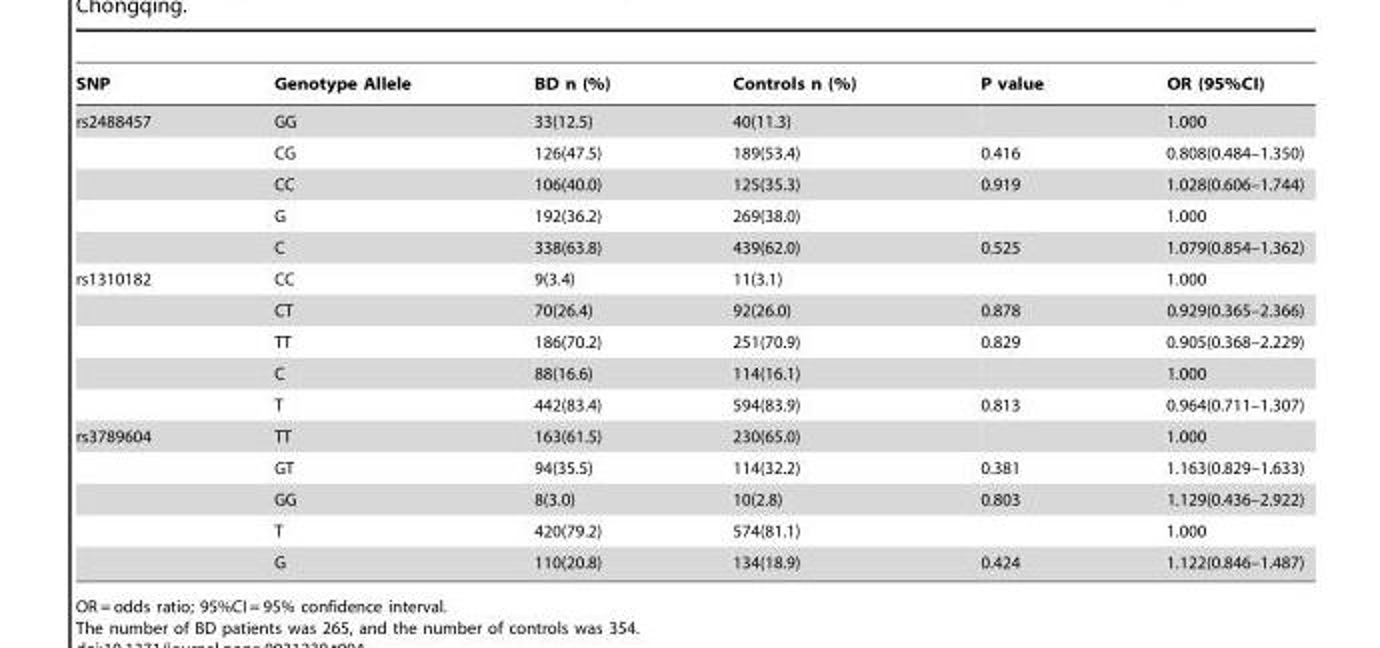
<table><thead><tr><td>SNP</td><td>Genotype Allele</td><td>BD n (%)</td><td>Controls n (%)</td><td>P value</td><td>OR (95%CI)</td></tr></thead><tbody><tr><td rowspan="5">rs2488457</td><td>GG</td><td>33(12.5)</td><td>40(11.3)</td><td></td><td>1.000</td></tr><tr><td>CG</td><td>126(47.5)</td><td>189(53.4)</td><td>0.416</td><td>0.808(0.484–1.350)</td></tr><tr><td>CC</td><td>106(40.0)</td><td>125(35.3)</td><td>0.919</td><td>1.028(0.606–1.744)</td></tr><tr><td>G</td><td>192(36.2)</td><td>269(38.0)</td><td></td><td>1.000</td></tr><tr><td>C</td><td>338(63.8)</td><td>439(62.0)</td><td>0.525</td><td>1.079(0.854–1.362)</td></tr><tr><td rowspan="5">rs1310182</td><td>CC</td><td>9(3.4)</td><td>11(3.1)</td><td></td><td>1.000</td></tr><tr><td>CT</td><td>70(26.4)</td><td>92(26.0)</td><td>0.878</td><td>0.929(0.365–2.366)</td></tr><tr><td>TT</td><td>186(70.2)</td><td>251(70.9)</td><td>0.829</td><td>0.905(0.368–2.229)</td></tr><tr><td>C</td><td>88(16.6)</td><td>114(16.1)</td><td></td><td>1.000</td></tr><tr><td>T</td><td>442(83.4)</td><td>594(83.9)</td><td>0.813</td><td>0.964(0.711–1.307)</td></tr><tr><td rowspan="5">rs3789604</td><td>TT</td><td>163(61.5)</td><td>230(65.0)</td><td></td><td>1.000</td></tr><tr><td>GT</td><td>94(35.5)</td><td>114(32.2)</td><td>0.381</td><td>1.163(0.829–1.633)</td></tr><tr><td>GG</td><td>8(3.0)</td><td>10(2.8)</td><td>0.803</td><td>1.129(0.436–2.922)</td></tr><tr><td>T</td><td>420(79.2)</td><td>574(81.1)</td><td></td><td>1.000</td></tr><tr><td>G</td><td>110(20.8)</td><td>134(18.9)</td><td>0.424</td><td>1.122(0.846–1.487)</td></tr></tbody></table>